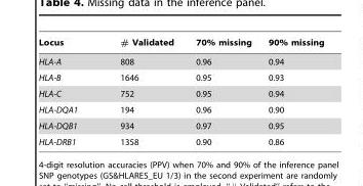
<table><thead><tr><td>Locus</td><td># Validated</td><td>70% missing</td><td>90% missing</td></tr></thead><tbody><tr><td>HLA-A</td><td>808</td><td>0.96</td><td>0.94</td></tr><tr><td>HLA-B</td><td>1646</td><td>0.95</td><td>0.93</td></tr><tr><td>HLA-C</td><td>752</td><td>0.95</td><td>0.94</td></tr><tr><td>HLA-DQA1</td><td>194</td><td>0.96</td><td>0.90</td></tr><tr><td>HLA-DQB1</td><td>934</td><td>0.97</td><td>0.95</td></tr><tr><td>HLA-DRB1</td><td>1358</td><td>0.90</td><td>0.86</td></tr></tbody></table>